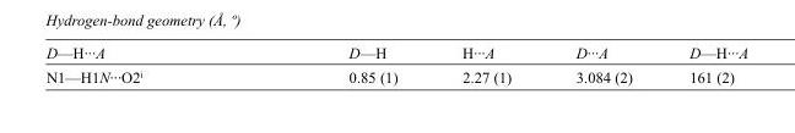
<table><tbody><tr><td>D—H···A</td><td>D—H</td><td>H···A</td><td>D···A</td><td>D—H···A</td></tr><tr><td>N1—H1N···O2<sup>i</sup></td><td>0.85 (1)</td><td>2.27 (1)</td><td>3.084 (2)</td><td>161 (2)</td></tr></tbody></table>